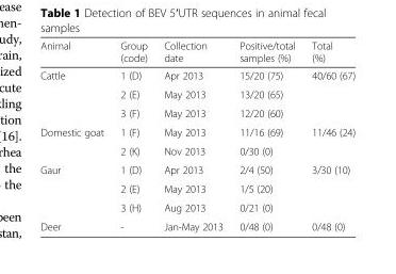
<table><thead><tr><td>Animal</td><td>Group (code)</td><td>Collection date</td><td>Positive/total samples (%)</td><td>Total (%)</td></tr></thead><tbody><tr><td rowspan="3">Cattle</td><td>1 (D)</td><td>Apr 2013</td><td>15/20 (75)</td><td>40/60 (67)</td></tr><tr><td>2 (E)</td><td>May 2013</td><td>13/20 (65)</td><td></td></tr><tr><td>3 (F)</td><td>May 2013</td><td>12/20 (60)</td><td></td></tr><tr><td rowspan="2">Domestic goat</td><td>1 (F)</td><td>May 2013</td><td>11/16 (69)</td><td>11/46 (24)</td></tr><tr><td>2 (K)</td><td>Nov 2013</td><td>0/30 (0)</td><td></td></tr><tr><td rowspan="3">Gaur</td><td>1 (D)</td><td>Apr 2013</td><td>2/4 (50)</td><td>3/30 (10)</td></tr><tr><td>2 (E)</td><td>May 2013</td><td>1/5 (20)</td><td></td></tr><tr><td>3 (H)</td><td>Aug 2013</td><td>0/21 (0)</td><td></td></tr><tr><td>Deer</td><td>-</td><td>Jan-May 2013</td><td>0/48 (0)</td><td>0/48 (0)</td></tr></tbody></table>